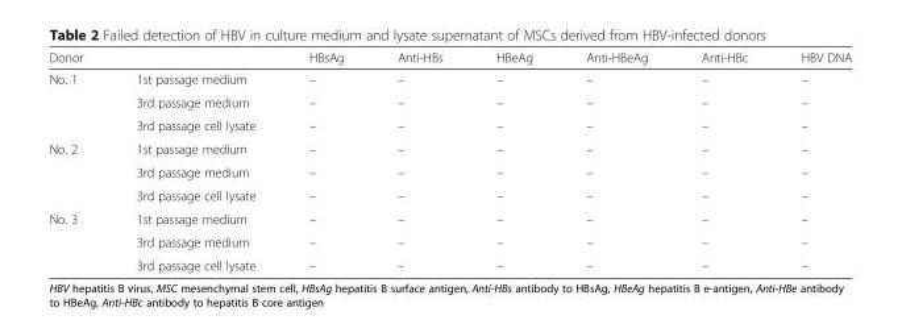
<table><thead><tr><td>Donor</td><td></td><td>HBsAg</td><td>Anti-HBs</td><td>HBeAg</td><td>Anti-HBeAg</td><td>Anti-HBc</td><td>HBV DNA</td></tr></thead><tbody><tr><td rowspan="3">No. 1</td><td>1st passage medium</td><td>–</td><td>–</td><td>–</td><td>–</td><td>–</td><td>–</td></tr><tr><td>3rd passage medium</td><td>–</td><td>–</td><td>–</td><td>–</td><td>–</td><td>–</td></tr><tr><td>3rd passage cell lysate</td><td>–</td><td>–</td><td>–</td><td>–</td><td>–</td><td>–</td></tr><tr><td rowspan="3">No. 2</td><td>1st passage medium</td><td>–</td><td>–</td><td>–</td><td>–</td><td>–</td><td>–</td></tr><tr><td>3rd passage medium</td><td>–</td><td>–</td><td>–</td><td>–</td><td>–</td><td>–</td></tr><tr><td>3rd passage cell lysate</td><td>–</td><td>–</td><td>–</td><td>–</td><td>–</td><td>–</td></tr><tr><td rowspan="3">No. 3</td><td>1st passage medium</td><td>–</td><td>–</td><td>–</td><td>–</td><td>–</td><td>–</td></tr><tr><td>3rd passage medium</td><td>–</td><td>–</td><td>–</td><td>–</td><td>–</td><td>–</td></tr><tr><td>3rd passage cell lysate</td><td>–</td><td>–</td><td>–</td><td>–</td><td>–</td><td>–</td></tr></tbody></table>